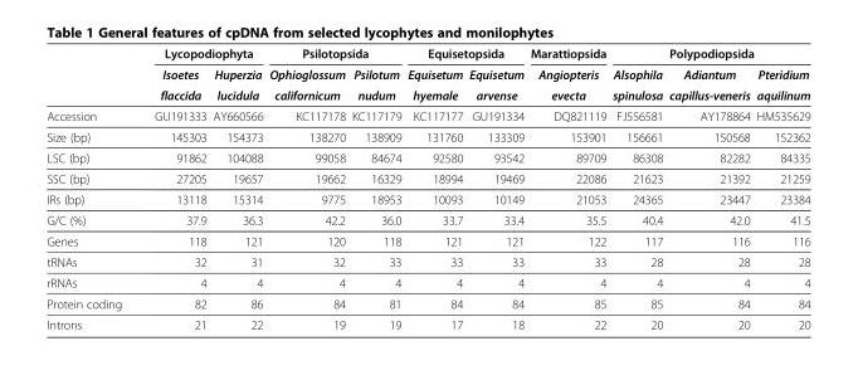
<table><thead><tr><td rowspan="3"></td><td colspan="2">Lycopodiophyta</td><td colspan="2">Psilotopsida</td><td colspan="2">Equisetopsida</td><td rowspan="3">Marattiopsida Angiopteris evecta</td><td colspan="3">Polypodiopsida</td></tr><tr><td rowspan="2">Isoetes flaccida</td><td rowspan="2">Huperzia lucidula</td><td rowspan="2">Ophioglossum californicum</td><td rowspan="2">Psilotum nudum</td><td rowspan="2">Equisetum hyemale</td><td rowspan="2">Equisetum arvense</td><td rowspan="2">Alsophila spinulosa</td><td rowspan="2">Adiantum capillus-veneris</td><td rowspan="2">Pteridium aquilinum</td></tr><tr></tr></thead><tbody><tr><td>Accession</td><td>GU191333</td><td>AY660566</td><td>KC117178</td><td>KC117179</td><td>KC117177</td><td>GU191334</td><td>DQ821119</td><td>FJ556581</td><td>AY178864</td><td>HM535629</td></tr><tr><td>Size (bp)</td><td>145303</td><td>154373</td><td>138270</td><td>138909</td><td>131760</td><td>133309</td><td>153901</td><td>156661</td><td>150568</td><td>152362</td></tr><tr><td>LSC (bp)</td><td>91862</td><td>104088</td><td>99058</td><td>84674</td><td>92580</td><td>93542</td><td>89709</td><td>86308</td><td>82282</td><td>84335</td></tr><tr><td>SSC (bp)</td><td>27205</td><td>19657</td><td>19662</td><td>16329</td><td>18994</td><td>19469</td><td>22086</td><td>21623</td><td>21392</td><td>21259</td></tr><tr><td>IRs (bp)</td><td>13118</td><td>15314</td><td>9775</td><td>18953</td><td>10093</td><td>10149</td><td>21053</td><td>24365</td><td>23447</td><td>23384</td></tr><tr><td>G/C (%)</td><td>37.9</td><td>36.3</td><td>42.2</td><td>36.0</td><td>33.7</td><td>33.4</td><td>35.5</td><td>40.4</td><td>42.0</td><td>41.5</td></tr><tr><td>Genes</td><td>118</td><td>121</td><td>120</td><td>118</td><td>121</td><td>121</td><td>122</td><td>117</td><td>116</td><td>116</td></tr><tr><td>tRNAs</td><td>32</td><td>31</td><td>32</td><td>33</td><td>33</td><td>33</td><td>33</td><td>28</td><td>28</td><td>28</td></tr><tr><td>rRNAs</td><td>4</td><td>4</td><td>4</td><td>4</td><td>4</td><td>4</td><td>4</td><td>4</td><td>4</td><td>4</td></tr><tr><td>Protein coding</td><td>82</td><td>86</td><td>84</td><td>81</td><td>84</td><td>84</td><td>85</td><td>85</td><td>84</td><td>84</td></tr><tr><td>Introns</td><td>21</td><td>22</td><td>19</td><td>19</td><td>17</td><td>18</td><td>22</td><td>20</td><td>20</td><td>20</td></tr></tbody></table>